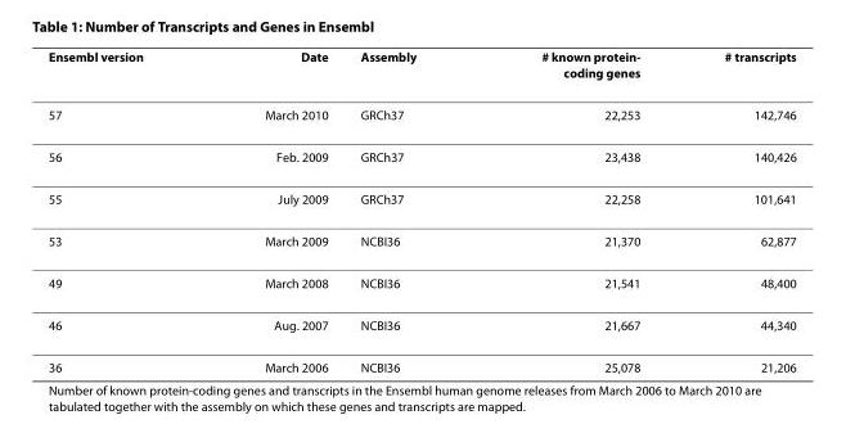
<table><thead><tr><td>Ensembl version</td><td>Date</td><td>Assembly</td><td># known protein- coding genes</td><td># transcripts</td></tr></thead><tbody><tr><td>57</td><td>March 2010</td><td>GRCh37</td><td>22,253</td><td>142,746</td></tr><tr><td>56</td><td>Feb. 2009</td><td>GRCh37</td><td>23,438</td><td>140,426</td></tr><tr><td>55</td><td>July 2009</td><td>GRCh37</td><td>22,258</td><td>101,641</td></tr><tr><td>53</td><td>March 2009</td><td>NCBI36</td><td>21,370</td><td>62,877</td></tr><tr><td>49</td><td>March 2008</td><td>NCBI36</td><td>21,541</td><td>48,400</td></tr><tr><td>46</td><td>Aug. 2007</td><td>NCBI36</td><td>21,667</td><td>44,340</td></tr><tr><td>36</td><td>March 2006</td><td>NCBI36</td><td>25,078</td><td>21,206</td></tr></tbody></table>